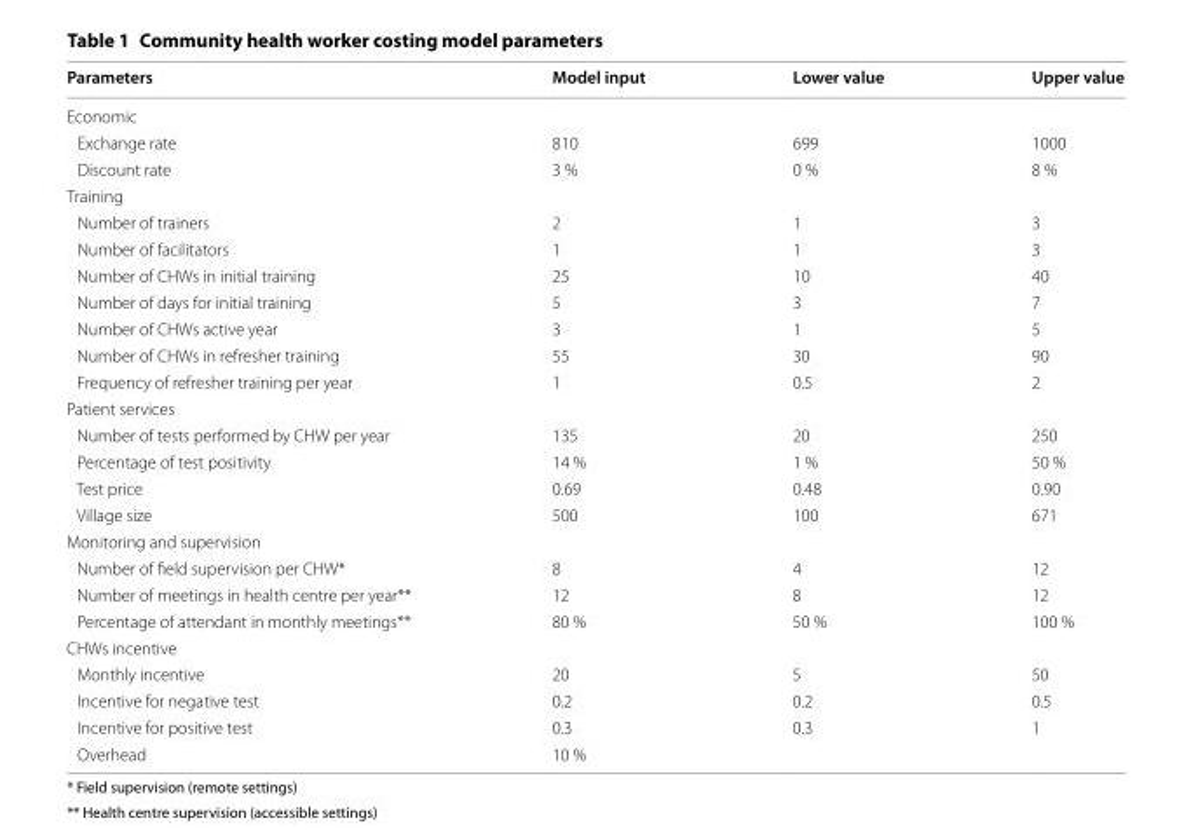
<table><thead><tr><td>Parameters</td><td>Model input</td><td>Lower value</td><td>Upper value</td></tr></thead><tbody><tr><td colspan="4">Economic</td></tr><tr><td>Exchange rate</td><td>810</td><td>699</td><td>1000</td></tr><tr><td>Discount rate</td><td>3 %</td><td>0 %</td><td>8 %</td></tr><tr><td colspan="4">Training</td></tr><tr><td>Number of trainers</td><td>2</td><td>1</td><td>3</td></tr><tr><td>Number of facilitators</td><td>1</td><td>1</td><td>3</td></tr><tr><td>Number of CHWs in initial training</td><td>25</td><td>10</td><td>40</td></tr><tr><td>Number of days for initial training</td><td>5</td><td>3</td><td>7</td></tr><tr><td>Number of CHWs active year</td><td>3</td><td>1</td><td>5</td></tr><tr><td>Number of CHWs in refresher training</td><td>55</td><td>30</td><td>90</td></tr><tr><td>Frequency of refresher training per year</td><td>1</td><td>0.5</td><td>2</td></tr><tr><td colspan="4">Patient services</td></tr><tr><td>Number of tests performed by CHW per year</td><td>135</td><td>20</td><td>250</td></tr><tr><td>Percentage of test positivity</td><td>14 %</td><td>1 %</td><td>50 %</td></tr><tr><td>Test price</td><td>0.69</td><td>0.48</td><td>0.90</td></tr><tr><td>Village size</td><td>500</td><td>100</td><td>671</td></tr><tr><td colspan="4">Monitoring and supervision</td></tr><tr><td>Number of field supervision per CHW*</td><td>8</td><td>4</td><td>12</td></tr><tr><td>Number of meetings in health centre per year**</td><td>12</td><td>8</td><td>12</td></tr><tr><td>Percentage of attendant in monthly meetings**</td><td>80 %</td><td>50 %</td><td>100 %</td></tr><tr><td colspan="4">CHWs incentive</td></tr><tr><td>Monthly incentive</td><td>20</td><td>5</td><td>50</td></tr><tr><td>Incentive for negative test</td><td>0.2</td><td>0.2</td><td>0.5</td></tr><tr><td>Incentive for positive test</td><td>0.3</td><td>0.3</td><td>1</td></tr><tr><td>Overhead</td><td>10 %</td><td></td><td></td></tr></tbody></table>